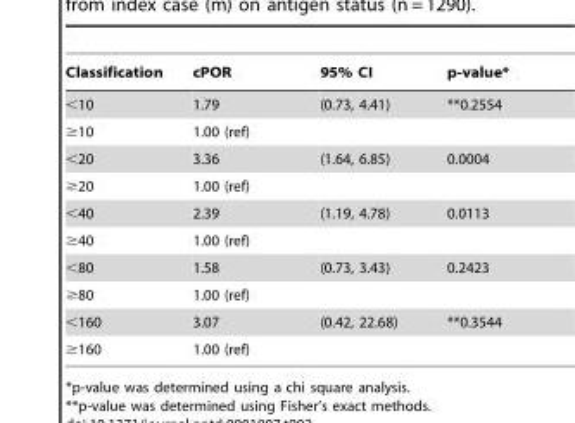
<table><thead><tr><td>Classification</td><td>cPOR</td><td>95% CI</td><td>p-value*</td></tr></thead><tbody><tr><td>&lt;10</td><td>1.79</td><td>(0.73, 4.41)</td><td>**0.2554</td></tr><tr><td>≥10</td><td>1.00 (ref)</td><td></td><td></td></tr><tr><td>&lt;20</td><td>3.36</td><td>(1.64, 6.85)</td><td>0.0004</td></tr><tr><td>≥20</td><td>1.00 (ref)</td><td></td><td></td></tr><tr><td>&lt;40</td><td>2.39</td><td>(1.19, 4.78)</td><td>0.0113</td></tr><tr><td>≥40</td><td>1.00 (ref)</td><td></td><td></td></tr><tr><td>&lt;80</td><td>1.58</td><td>(0.73, 3.43)</td><td>0.2423</td></tr><tr><td>≥80</td><td>1.00 (ref)</td><td></td><td></td></tr><tr><td>&lt;160</td><td>3.07</td><td>(0.42, 22.68)</td><td>**0.3544</td></tr><tr><td>≥160</td><td>1.00 (ref)</td><td></td><td></td></tr></tbody></table>